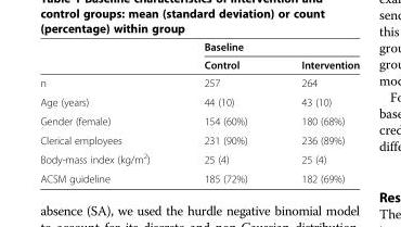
<table><thead><tr><td rowspan="2"></td><td colspan="2">Baseline</td></tr><tr><td>Control</td><td>Intervention</td></tr></thead><tbody><tr><td>n</td><td>257</td><td>264</td></tr><tr><td>Age (years)</td><td>44 (10)</td><td>43 (10)</td></tr><tr><td>Gender (female)</td><td>154 (60%)</td><td>180 (68%)</td></tr><tr><td>Clerical employees</td><td>231 (90%)</td><td>236 (89%)</td></tr><tr><td>Body-mass index (kg/m<sup>2</sup>)</td><td>25 (4)</td><td>25 (4)</td></tr><tr><td>ACSM guideline</td><td>185 (72%)</td><td>182 (69%)</td></tr></tbody></table>